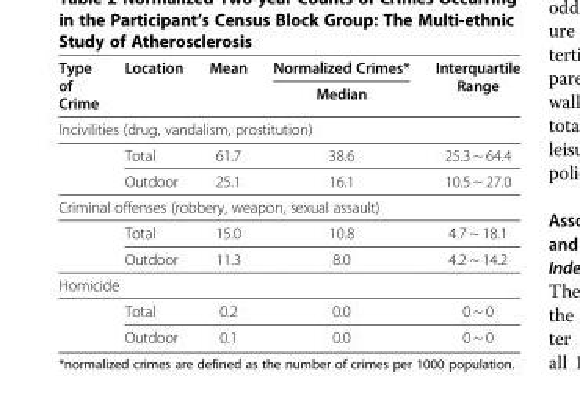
<table><thead><tr><td rowspan="2">Type of Crime</td><td rowspan="2">Location</td><td rowspan="2">Mean</td><td rowspan="2">Normalized Crimes* Median</td><td rowspan="2">Interquartile Range</td></tr><tr></tr></thead><tbody><tr><td colspan="5">Incivilities (drug, vandalism, prostitution)</td></tr><tr><td rowspan="2"></td><td>Total</td><td>61.7</td><td>38.6</td><td>25.3 ~ 64.4</td></tr><tr><td>Outdoor</td><td>25.1</td><td>16.1</td><td>10.5 ~ 27.0</td></tr><tr><td colspan="5">Criminal offenses (robbery, weapon, sexual assault)</td></tr><tr><td rowspan="2"></td><td>Total</td><td>15.0</td><td>10.8</td><td>4.7 ~ 18.1</td></tr><tr><td>Outdoor</td><td>11.3</td><td>8.0</td><td>4.2 ~ 14.2</td></tr><tr><td colspan="5">Homicide</td></tr><tr><td rowspan="2"></td><td>Total</td><td>0.2</td><td>0.0</td><td>0 ~ 0</td></tr><tr><td>Outdoor</td><td>0.1</td><td>0.0</td><td>0 ~ 0</td></tr></tbody></table>